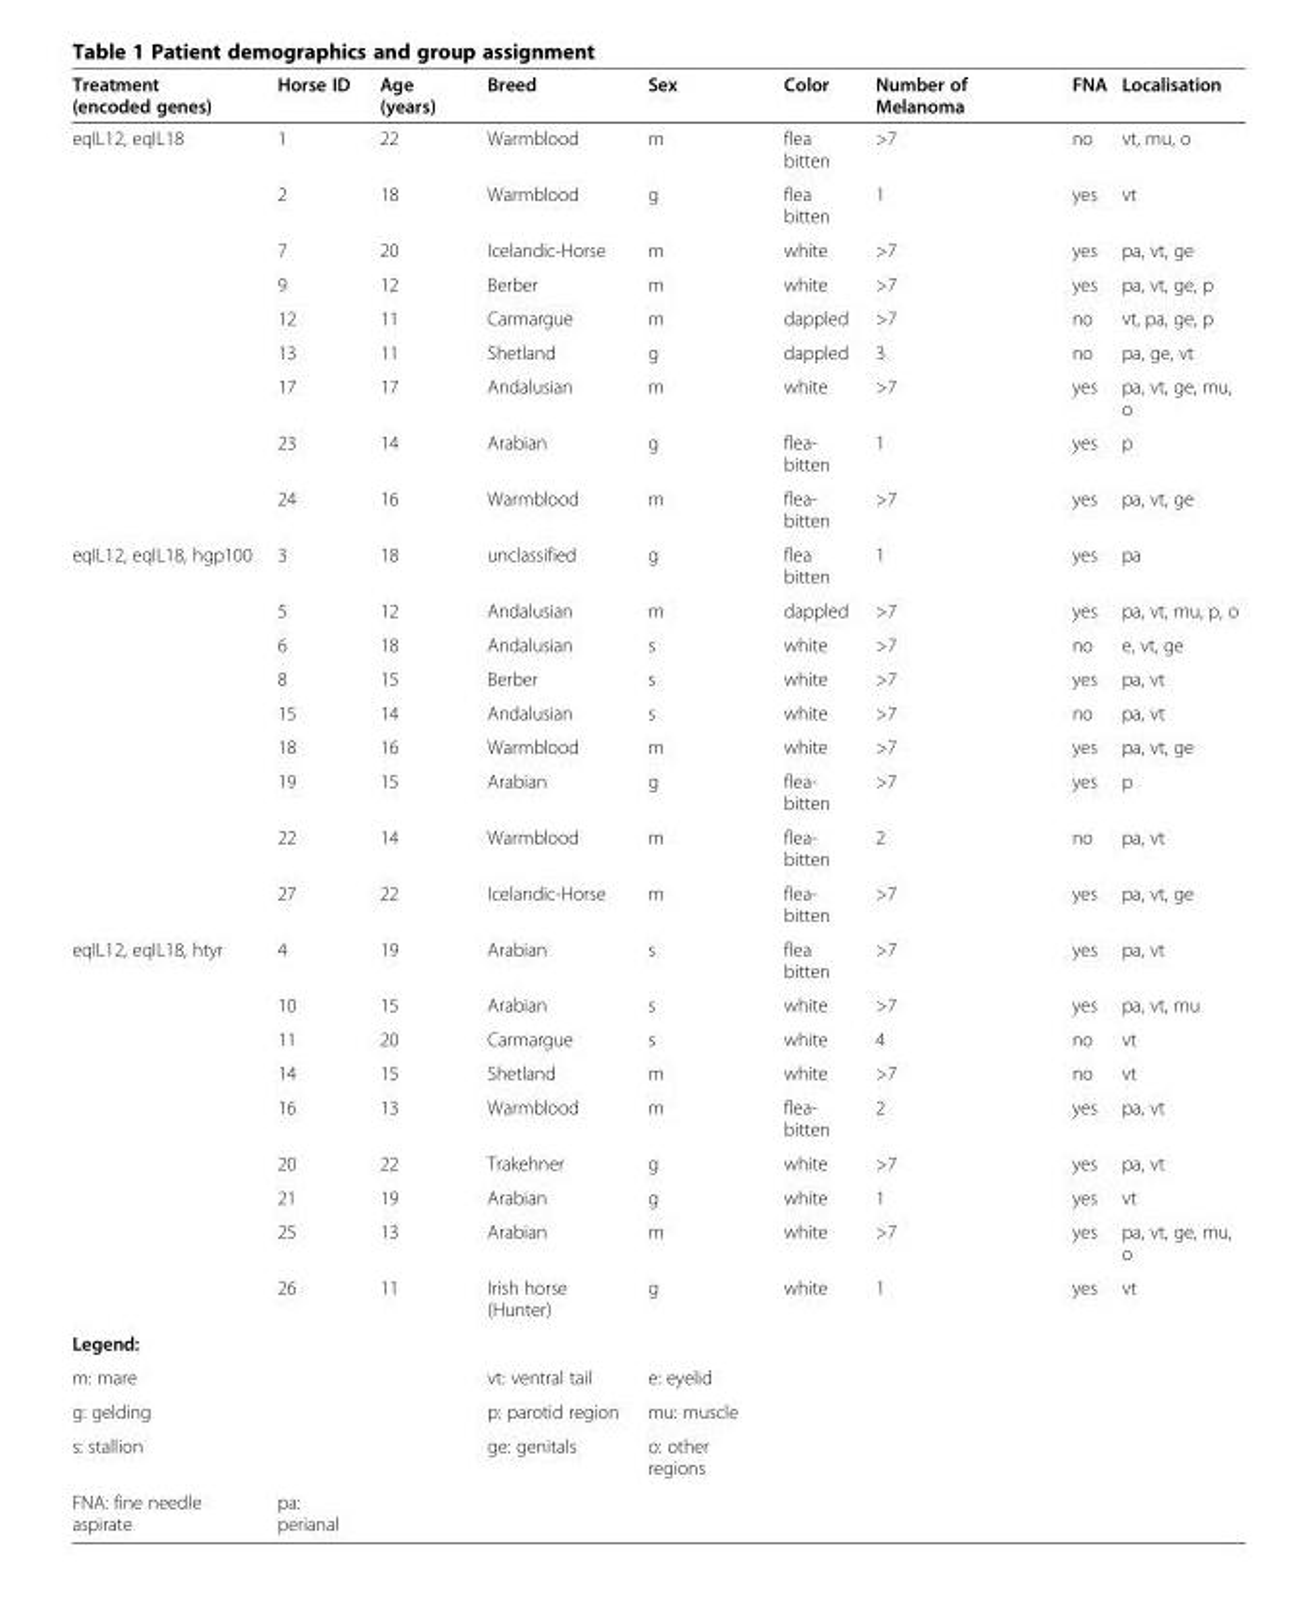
<table><thead><tr><td>Treatment (encoded genes)</td><td>Horse ID</td><td>Age (years)</td><td>Breed</td><td>Sex</td><td>Color</td><td>Number of Melanoma</td><td>FNA</td><td>Localisation</td></tr></thead><tbody><tr><td rowspan="9">eqIL12, eqIL18</td><td>1</td><td>22</td><td>Warmblood</td><td>m</td><td>flea bitten</td><td>&gt;7</td><td>no</td><td>vt, mu, o</td></tr><tr><td>2</td><td>18</td><td>Warmblood</td><td>g</td><td>flea bitten</td><td>1</td><td>yes</td><td>vt</td></tr><tr><td>7</td><td>20</td><td>Icelandic-Horse</td><td>m</td><td>white</td><td>&gt;7</td><td>yes</td><td>pa, vt, ge</td></tr><tr><td>9</td><td>12</td><td>Berber</td><td>m</td><td>white</td><td>&gt;7</td><td>yes</td><td>pa, vt, ge, p</td></tr><tr><td>12</td><td>11</td><td>Carmargue</td><td>m</td><td>dappled</td><td>&gt;7</td><td>no</td><td>vt, pa, ge, p</td></tr><tr><td>13</td><td>11</td><td>Shetland</td><td>g</td><td>dappled</td><td>3</td><td>no</td><td>pa, ge, vt</td></tr><tr><td>17</td><td>17</td><td>Andalusian</td><td>m</td><td>white</td><td>&gt;7</td><td>yes</td><td>pa, vt, ge, mu, o</td></tr><tr><td>23</td><td>14</td><td>Arabian</td><td>g</td><td>flea- bitten</td><td>1</td><td>yes</td><td>p</td></tr><tr><td>24</td><td>16</td><td>Warmblood</td><td>m</td><td>flea- bitten</td><td>&gt;7</td><td>yes</td><td>pa, vt, ge</td></tr><tr><td rowspan="9">eqIL12, eqIL18, hgp100</td><td>3</td><td>18</td><td>unclassified</td><td>g</td><td>flea bitten</td><td>1</td><td>yes</td><td>pa</td></tr><tr><td>5</td><td>12</td><td>Andalusian</td><td>m</td><td>dappled</td><td>&gt;7</td><td>yes</td><td>pa, vt, mu, p, o</td></tr><tr><td>6</td><td>18</td><td>Andalusian</td><td>s</td><td>white</td><td>&gt;7</td><td>no</td><td>e, vt, ge</td></tr><tr><td>8</td><td>15</td><td>Berber</td><td>s</td><td>white</td><td>&gt;7</td><td>yes</td><td>pa, vt</td></tr><tr><td>15</td><td>14</td><td>Andalusian</td><td>s</td><td>white</td><td>&gt;7</td><td>no</td><td>pa, vt</td></tr><tr><td>18</td><td>16</td><td>Warmblood</td><td>m</td><td>white</td><td>&gt;7</td><td>yes</td><td>pa, vt, ge</td></tr><tr><td>19</td><td>15</td><td>Arabian</td><td>g</td><td>flea- bitten</td><td>&gt;7</td><td>yes</td><td>p</td></tr><tr><td>22</td><td>14</td><td>Warmblood</td><td>m</td><td>flea- bitten</td><td>2</td><td>no</td><td>pa, vt</td></tr><tr><td>27</td><td>22</td><td>Icelandic-Horse</td><td>m</td><td>flea- bitten</td><td>&gt;7</td><td>yes</td><td>pa, vt, ge</td></tr><tr><td rowspan="9">eqIL12, eqIL18, htyr</td><td>4</td><td>19</td><td>Arabian</td><td>s</td><td>flea bitten</td><td>&gt;7</td><td>yes</td><td>pa, vt</td></tr><tr><td>10</td><td>15</td><td>Arabian</td><td>s</td><td>white</td><td>&gt;7</td><td>yes</td><td>pa, vt, mu</td></tr><tr><td>11</td><td>20</td><td>Carmargue</td><td>s</td><td>white</td><td>4</td><td>no</td><td>vt</td></tr><tr><td>14</td><td>15</td><td>Shetland</td><td>m</td><td>white</td><td>&gt;7</td><td>no</td><td>vt</td></tr><tr><td>16</td><td>13</td><td>Warmblood</td><td>m</td><td>flea- bitten</td><td>2</td><td>yes</td><td>pa, vt</td></tr><tr><td>20</td><td>22</td><td>Trakehner</td><td>g</td><td>white</td><td>&gt;7</td><td>yes</td><td>pa, vt</td></tr><tr><td>21</td><td>19</td><td>Arabian</td><td>g</td><td>white</td><td>1</td><td>yes</td><td>vt</td></tr><tr><td>25</td><td>13</td><td>Arabian</td><td>m</td><td>white</td><td>&gt;7</td><td>yes</td><td>pa, vt, ge, mu, o</td></tr><tr><td>26</td><td>11</td><td>Irish horse (Hunter)</td><td>g</td><td>white</td><td>1</td><td>yes</td><td>vt</td></tr><tr><td colspan="9">Legend:</td></tr><tr><td>m: mare</td><td></td><td></td><td>vt: ventral tail</td><td>e: eyelid</td><td></td><td></td><td></td><td></td></tr><tr><td>g: gelding</td><td></td><td></td><td>p: parotid region</td><td>mu: muscle</td><td></td><td></td><td></td><td></td></tr><tr><td>s: stallion</td><td></td><td></td><td>ge: genitals</td><td>o: other regions</td><td></td><td></td><td></td><td></td></tr><tr><td>FNA: fine needle aspirate</td><td>pa: perianal</td><td></td><td></td><td></td><td></td><td></td><td></td><td></td></tr></tbody></table>